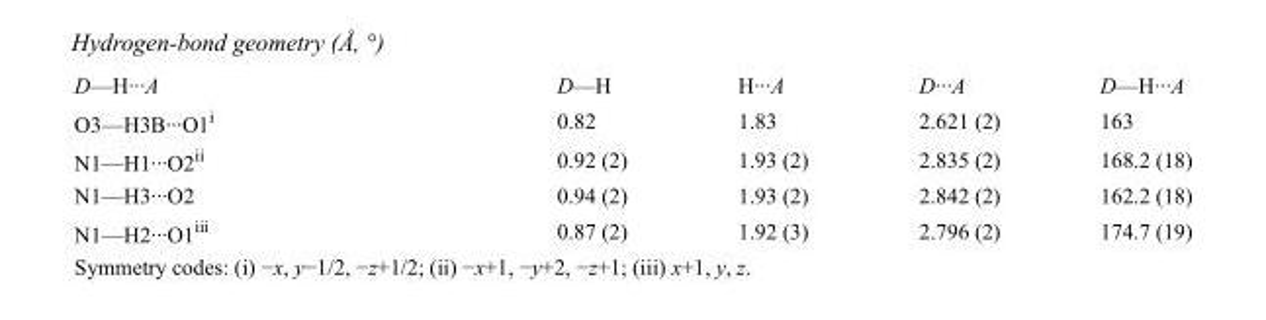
<table><tbody><tr><td>D—H···A</td><td>D—H</td><td>H···A</td><td>D···A</td><td>D—H···A</td></tr><tr><td>O3—H3B···O1<sup>i</sup></td><td>0.82</td><td>1.83</td><td>2.621 (2)</td><td>163</td></tr><tr><td>N1—H1···O2<sup>ii</sup></td><td>0.92 (2)</td><td>1.93 (2)</td><td>2.835 (2)</td><td>168.2 (18)</td></tr><tr><td>N1—H3···O2</td><td>0.94 (2)</td><td>1.93 (2)</td><td>2.842 (2)</td><td>162.2 (18)</td></tr><tr><td>N1—H2···O1<sup>iii</sup></td><td>0.87 (2)</td><td>1.92 (3)</td><td>2.796 (2)</td><td>174.7 (19)</td></tr></tbody></table>